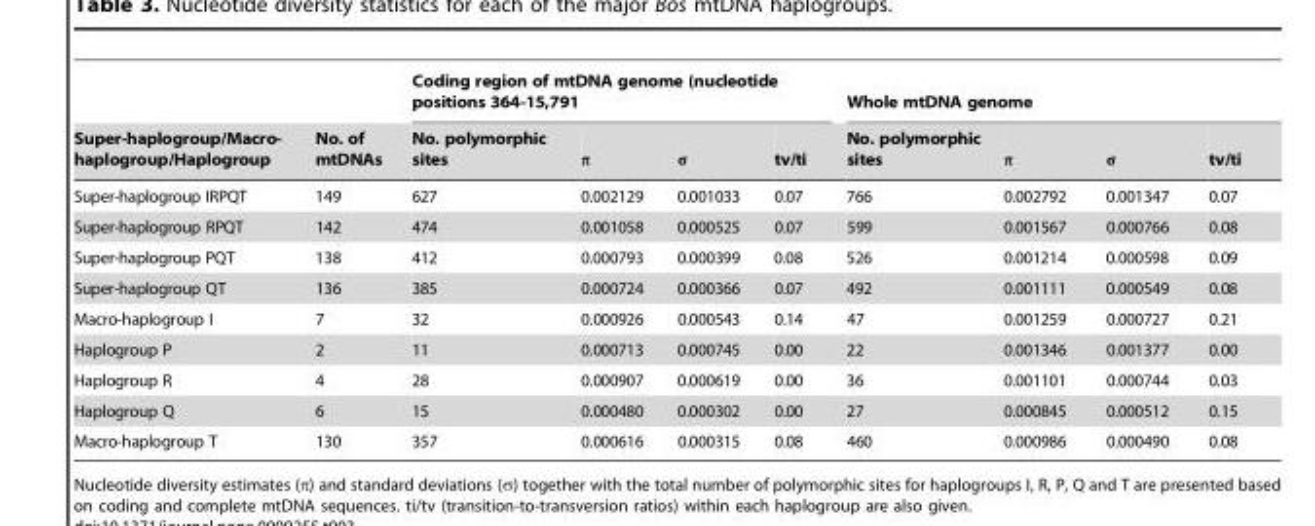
<table><thead><tr><td rowspan="2">Super-haplogroup/Macro- haplogroup/Haplogroup</td><td rowspan="2">No. of mtDNAs</td><td colspan="4">Coding region of mtDNA genome (nucleotide positions 364-15,791</td><td colspan="4">Whole mtDNA genome</td></tr><tr><td>No. polymorphic sites</td><td>π</td><td>σ</td><td>tv/ti</td><td>No. polymorphic sites</td><td>π</td><td>σ</td><td>tv/ti</td></tr></thead><tbody><tr><td>Super-haplogroup IRPQT</td><td>149</td><td>627</td><td>0.002129</td><td>0.001033</td><td>0.07</td><td>766</td><td>0.002792</td><td>0.001347</td><td>0.07</td></tr><tr><td>Super-haplogroup RPQT</td><td>142</td><td>474</td><td>0.001058</td><td>0.000525</td><td>0.07</td><td>599</td><td>0.001567</td><td>0.000766</td><td>0.08</td></tr><tr><td>Super-haplogroup PQT</td><td>138</td><td>412</td><td>0.000793</td><td>0.000399</td><td>0.08</td><td>526</td><td>0.001214</td><td>0.000598</td><td>0.09</td></tr><tr><td>Super-haplogroup QT</td><td>136</td><td>385</td><td>0.000724</td><td>0.000366</td><td>0.07</td><td>492</td><td>0.001111</td><td>0.000549</td><td>0.08</td></tr><tr><td>Macro-haplogroup I</td><td>7</td><td>32</td><td>0.000926</td><td>0.000543</td><td>0.14</td><td>47</td><td>0.001259</td><td>0.000727</td><td>0.21</td></tr><tr><td>Haplogroup P</td><td>2</td><td>11</td><td>0.000713</td><td>0.000745</td><td>0.00</td><td>22</td><td>0.001346</td><td>0.001377</td><td>0.00</td></tr><tr><td>Haplogroup R</td><td>4</td><td>28</td><td>0.000907</td><td>0.000619</td><td>0.00</td><td>36</td><td>0.001101</td><td>0.000744</td><td>0.03</td></tr><tr><td>Haplogroup Q</td><td>6</td><td>15</td><td>0.000480</td><td>0.000302</td><td>0.00</td><td>27</td><td>0.000845</td><td>0.000512</td><td>0.15</td></tr><tr><td>Macro-haplogroup T</td><td>130</td><td>357</td><td>0.000616</td><td>0.000315</td><td>0.08</td><td>460</td><td>0.000986</td><td>0.000490</td><td>0.08</td></tr></tbody></table>